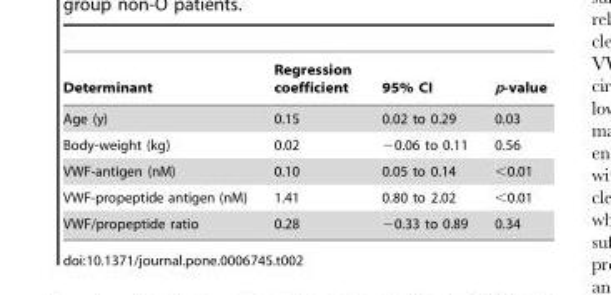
<table><thead><tr><td>Determinant</td><td>Regression coefficient</td><td>95% CI</td><td>p-value</td></tr></thead><tbody><tr><td>Age (y)</td><td>0.15</td><td>0.02 to 0.29</td><td>0.03</td></tr><tr><td>Body-weight (kg)</td><td>0.02</td><td>−0.06 to 0.11</td><td>0.56</td></tr><tr><td>VWF-antigen (nM)</td><td>0.10</td><td>0.05 to 0.14</td><td>&lt;0.01</td></tr><tr><td>VWF-propeptide antigen (nM)</td><td>1.41</td><td>0.80 to 2.02</td><td>&lt;0.01</td></tr><tr><td>VWF/propeptide ratio</td><td>0.28</td><td>−0.33 to 0.89</td><td>0.34</td></tr></tbody></table>